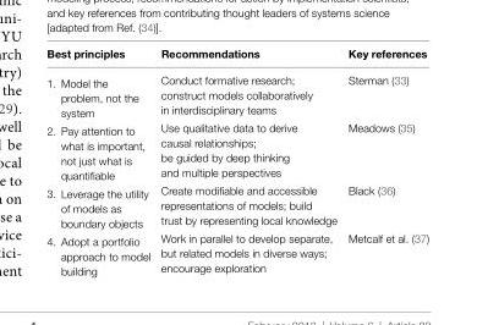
<table><thead><tr><td>Best principles</td><td>recommendations</td><td>Key references</td></tr></thead><tbody><tr><td>1. Model the problem, not the system</td><td>Conduct formative research; construct models collaboratively in interdisciplinary teams</td><td>Sterman (33)</td></tr><tr><td>2. Pay attention to what is important, not just what is quantifiable</td><td>Use qualitative data to derive causal relationships; be guided by deep thinking and multiple perspectives</td><td>Meadows (35)</td></tr><tr><td>3. Leverage the utility of models as boundary objects</td><td>Create modifiable and accessible representations of models; build trust by representing local knowledge</td><td>Black (36)</td></tr><tr><td>4. Adopt a portfolio approach to model building</td><td>Work in parallel to develop separate, but related models in diverse ways; encourage exploration</td><td>Metcalf et al. (37)</td></tr></tbody></table>